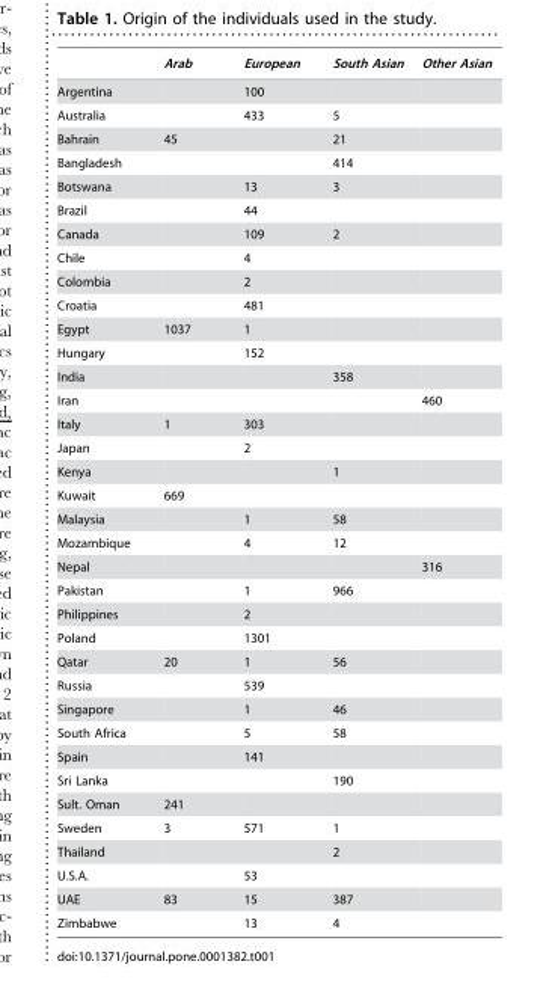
<table><thead><tr><td></td><td>Arab</td><td>European</td><td>South Asian</td><td>Other Asian</td></tr></thead><tbody><tr><td>Argentina</td><td></td><td>100</td><td></td><td></td></tr><tr><td>Australia</td><td></td><td>433</td><td>5</td><td></td></tr><tr><td>Bahrain</td><td>45</td><td></td><td>21</td><td></td></tr><tr><td>Bangladesh</td><td></td><td></td><td>414</td><td></td></tr><tr><td>Botswana</td><td></td><td>13</td><td>3</td><td></td></tr><tr><td>Brazil</td><td></td><td>44</td><td></td><td></td></tr><tr><td>Canada</td><td></td><td>109</td><td>2</td><td></td></tr><tr><td>Chile</td><td></td><td>4</td><td></td><td></td></tr><tr><td>Colombia</td><td></td><td>2</td><td></td><td></td></tr><tr><td>Croatia</td><td></td><td>481</td><td></td><td></td></tr><tr><td>Egypt</td><td>1037</td><td>1</td><td></td><td></td></tr><tr><td>Hungary</td><td></td><td>152</td><td></td><td></td></tr><tr><td>India</td><td></td><td></td><td>358</td><td></td></tr><tr><td>Iran</td><td></td><td></td><td></td><td>460</td></tr><tr><td>Italy</td><td>1</td><td>303</td><td></td><td></td></tr><tr><td>Japan</td><td></td><td>2</td><td></td><td></td></tr><tr><td>Kenya</td><td></td><td></td><td>1</td><td></td></tr><tr><td>Kuwait</td><td>669</td><td></td><td></td><td></td></tr><tr><td>Malaysia</td><td></td><td>1</td><td>58</td><td></td></tr><tr><td>Mozambique</td><td></td><td>4</td><td>12</td><td></td></tr><tr><td>Nepal</td><td></td><td></td><td></td><td>316</td></tr><tr><td>Pakistan</td><td></td><td>1</td><td>966</td><td></td></tr><tr><td>Philippines</td><td></td><td>2</td><td></td><td></td></tr><tr><td>Poland</td><td></td><td>1301</td><td></td><td></td></tr><tr><td>Qatar</td><td>20</td><td>1</td><td>56</td><td></td></tr><tr><td>Russia</td><td></td><td>539</td><td></td><td></td></tr><tr><td>Singapore</td><td></td><td>1</td><td>46</td><td></td></tr><tr><td>South Africa</td><td></td><td>5</td><td>58</td><td></td></tr><tr><td>Spain</td><td></td><td>141</td><td></td><td></td></tr><tr><td>Sri Lanka</td><td></td><td></td><td>190</td><td></td></tr><tr><td>Sult. Oman</td><td>241</td><td></td><td></td><td></td></tr><tr><td>Sweden</td><td>3</td><td>571</td><td>1</td><td></td></tr><tr><td>Thailand</td><td></td><td></td><td>2</td><td></td></tr><tr><td>U.S.A.</td><td></td><td>53</td><td></td><td></td></tr><tr><td>UAE</td><td>83</td><td>15</td><td>387</td><td></td></tr><tr><td>Zimbabwe</td><td></td><td>13</td><td>4</td><td></td></tr></tbody></table>